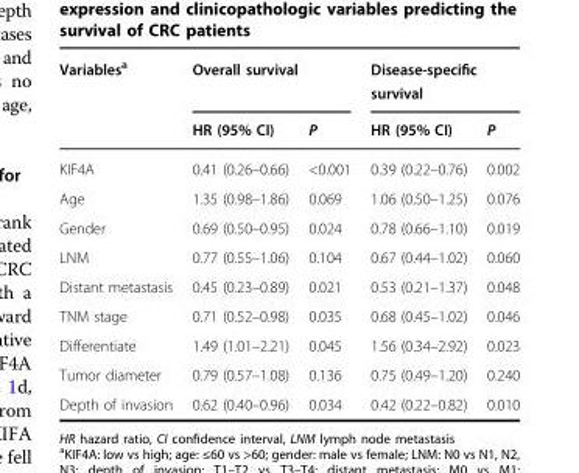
<table><thead><tr><td rowspan="2">Variables<sup>a</sup></td><td colspan="2">Overall survival</td><td colspan="2">Disease-specific survival</td></tr><tr><td>HR (95% CI)</td><td>P</td><td>HR (95% CI)</td><td>P</td></tr></thead><tbody><tr><td>KIF4A</td><td>0.41 (0.26–0.66)</td><td>&lt;0.001</td><td>0.39 (0.22–0.76)</td><td>0.002</td></tr><tr><td>Age</td><td>1.35 (0.98–1.86)</td><td>0.069</td><td>1.06 (0.50–1.25)</td><td>0.076</td></tr><tr><td>Gender</td><td>0.69 (0.50–0.95)</td><td>0.024</td><td>0.78 (0.66–1.10)</td><td>0.019</td></tr><tr><td>LNM</td><td>0.77 (0.55–1.06)</td><td>0.104</td><td>0.67 (0.44–1.02)</td><td>0.060</td></tr><tr><td>Distant metastasis</td><td>0.45 (0.23–0.89)</td><td>0.021</td><td>0.53 (0.21–1.37)</td><td>0.048</td></tr><tr><td>TNM stage</td><td>0.71 (0.52–0.98)</td><td>0.035</td><td>0.68 (0.45–1.02)</td><td>0.046</td></tr><tr><td>Differentiate</td><td>1.49 (1.01–2.21)</td><td>0.045</td><td>1.56 (0.34–2.92)</td><td>0.023</td></tr><tr><td>Tumor diameter</td><td>0.79 (0.57–1.08)</td><td>0.136</td><td>0.75 (0.49–1.20)</td><td>0.240</td></tr><tr><td>Depth of invasion</td><td>0.62 (0.40–0.96)</td><td>0.034</td><td>0.42 (0.22–0.82)</td><td>0.010</td></tr></tbody></table>